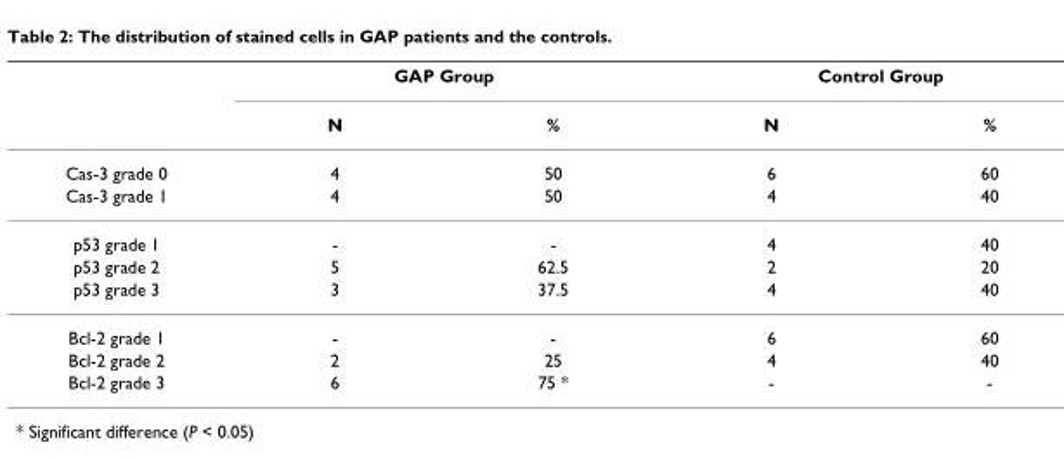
<table><thead><tr><td rowspan="2"></td><td colspan="2">GAP Group</td><td colspan="2">Control Group</td></tr><tr><td>N</td><td>%</td><td>N</td><td>%</td></tr></thead><tbody><tr><td>Cas-3 grade 0</td><td>4</td><td>50</td><td>6</td><td>60</td></tr><tr><td>Cas-3 grade 1</td><td>4</td><td>50</td><td>4</td><td>40</td></tr><tr><td>p53 grade 1</td><td>-</td><td>-</td><td>4</td><td>40</td></tr><tr><td>p53 grade 2</td><td>5</td><td>62.5</td><td>2</td><td>20</td></tr><tr><td>p53 grade 3</td><td>3</td><td>37.5</td><td>4</td><td>40</td></tr><tr><td>Bcl-2 grade 1</td><td>-</td><td>-</td><td>6</td><td>60</td></tr><tr><td>Bcl-2 grade 2</td><td>2</td><td>25</td><td>4</td><td>40</td></tr><tr><td>Bcl-2 grade 3</td><td>6</td><td>75 *</td><td>-</td><td>-</td></tr></tbody></table>